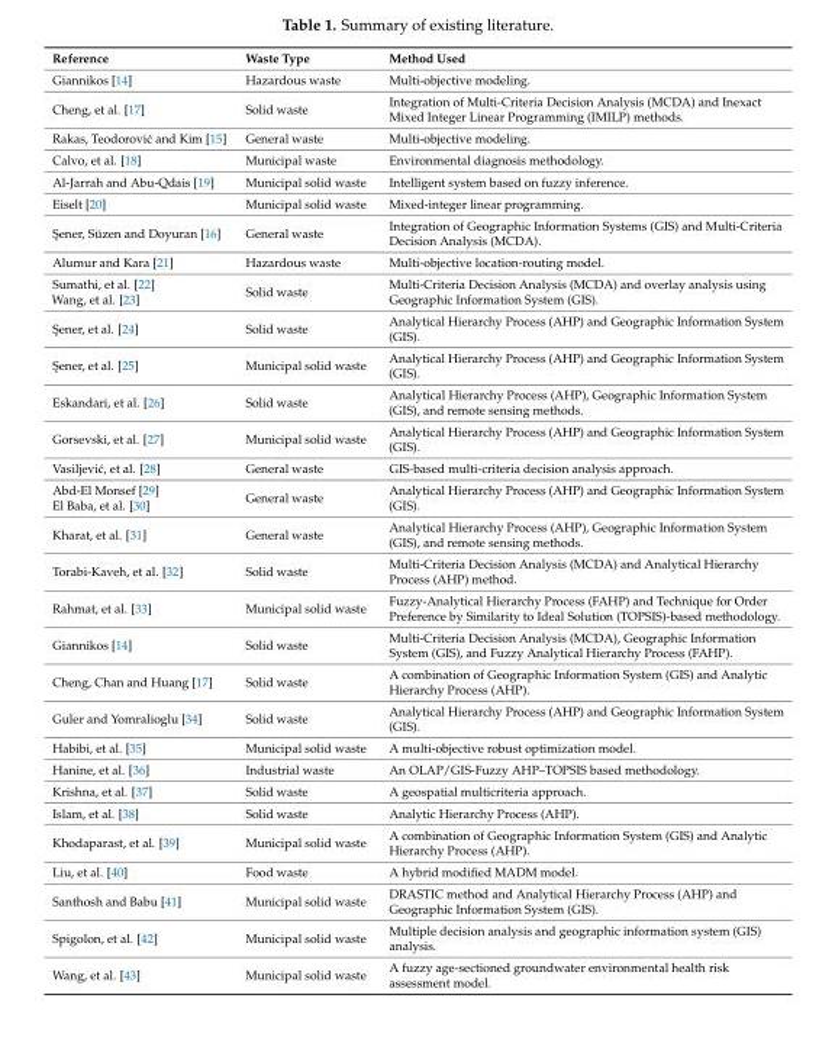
<table><thead><tr><td>Reference</td><td>Waste Type</td><td>Method Used</td></tr></thead><tbody><tr><td>Giannikos [14]</td><td>Hazardous waste</td><td>Multi-objective modeling.</td></tr><tr><td>Cheng, et al. [17]</td><td>Solid waste</td><td>Integration of Multi-Criteria Decision Analysis (MCDA) and Inexact Mixed Integer Linear Programming (IMILP) methods.</td></tr><tr><td>Rakas, Teodorovi´c and Kim [15]</td><td>General waste</td><td>Multi-objective modeling.</td></tr><tr><td>Calvo, et al. [18]</td><td>Municipal waste</td><td>Environmental diagnosis methodology.</td></tr><tr><td>Al-Jarrah and Abu-Qdais [19]</td><td>Municipal solid waste</td><td>Intelligent system based on fuzzy inference.</td></tr><tr><td>Eiselt [20]</td><td>Municipal solid waste</td><td>Mixed-integer linear programming.</td></tr><tr><td>¸Sener, Süzen and Doyuran [16]</td><td>General waste</td><td>Integration of Geographic Information Systems (GIS) and Multi-Criteria Decision Analysis (MCDA).</td></tr><tr><td>Alumur and Kara [21]</td><td>Hazardous waste</td><td>Multi-objective location-routing model.</td></tr><tr><td>Sumathi, et al. [22] Wang, et al. [23]</td><td>Solid waste</td><td>Multi-Criteria Decision Analysis (MCDA) and overlay analysis using Geographic Information System (GIS).</td></tr><tr><td>¸Sener, et al. [24]</td><td>Solid waste</td><td>Analytical Hierarchy Process (AHP) and Geographic Information System (GIS).</td></tr><tr><td>¸Sener, et al. [25]</td><td>Municipal solid waste</td><td>Analytical Hierarchy Process (AHP) and Geographic Information System (GIS).</td></tr><tr><td>Eskandari, et al. [26]</td><td>Solid waste</td><td>Analytical Hierarchy Process (AHP), Geographic Information System (GIS), and remote sensing methods.</td></tr><tr><td>Gorsevski, et al. [27]</td><td>Municipal solid waste</td><td>Analytical Hierarchy Process (AHP) and Geographic Information System (GIS).</td></tr><tr><td>Vasiljevi´c, et al. [28]</td><td>General waste</td><td>GIS-based multi-criteria decision analysis approach.</td></tr><tr><td>Abd-El Monsef [29] El Baba, et al. [30]</td><td>General waste</td><td>Analytical Hierarchy Process (AHP) and Geographic Information System (GIS).</td></tr><tr><td>Kharat, et al. [31]</td><td>General waste</td><td>Analytical Hierarchy Process (AHP), Geographic Information System (GIS), and remote sensing methods.</td></tr><tr><td>Torabi-Kaveh, et al. [32]</td><td>Solid waste</td><td>Multi-Criteria Decision Analysis (MCDA) and Analytical Hierarchy Process (AHP) method.</td></tr><tr><td>Rahmat, et al. [33]</td><td>Municipal solid waste</td><td>Fuzzy-Analytical Hierarchy Process (FAHP) and Technique for Order Preference by Similarity to Ideal Solution (TOPSIS)-based methodology.</td></tr><tr><td>Giannikos [14]</td><td>Solid waste</td><td>Multi-Criteria Decision Analysis (MCDA), Geographic Information System (GIS), and Fuzzy Analytical Hierarchy Process (FAHP).</td></tr><tr><td>Cheng, Chan and Huang [17]</td><td>Solid waste</td><td>A combination of Geographic Information System (GIS) and Analytic Hierarchy Process (AHP).</td></tr><tr><td>Guler and Yomralioglu [34]</td><td>Solid waste</td><td>Analytical Hierarchy Process (AHP) and Geographic Information System (GIS).</td></tr><tr><td>Habibi, et al. [35]</td><td>Municipal solid waste</td><td>A multi-objective robust optimization model.</td></tr><tr><td>Hanine, et al. [36]</td><td>Industrial waste</td><td>An OLAP/GIS-Fuzzy AHP–TOPSIS based methodology.</td></tr><tr><td>Krishna, et al. [37]</td><td>Solid waste</td><td>A geospatial multicriteria approach.</td></tr><tr><td>Islam, et al. [38]</td><td>Solid waste</td><td>Analytic Hierarchy Process (AHP).</td></tr><tr><td>Khodaparast, et al. [39]</td><td>Municipal solid waste</td><td>A combination of Geographic Information System (GIS) and Analytic Hierarchy Process (AHP).</td></tr><tr><td>Liu, et al. [40]</td><td>Food waste</td><td>A hybrid modified MADM model.</td></tr><tr><td>Santhosh and Babu [41]</td><td>Municipal solid waste</td><td>DRASTIC method and Analytical Hierarchy Process (AHP) and Geographic Information System (GIS).</td></tr><tr><td>Spigolon, et al. [42]</td><td>Municipal solid waste</td><td>Multiple decision analysis and geographic information system (GIS) analysis.</td></tr><tr><td>Wang, et al. [43]</td><td>Municipal solid waste</td><td>A fuzzy age-sectioned groundwater environmental health risk assessment model.</td></tr></tbody></table>